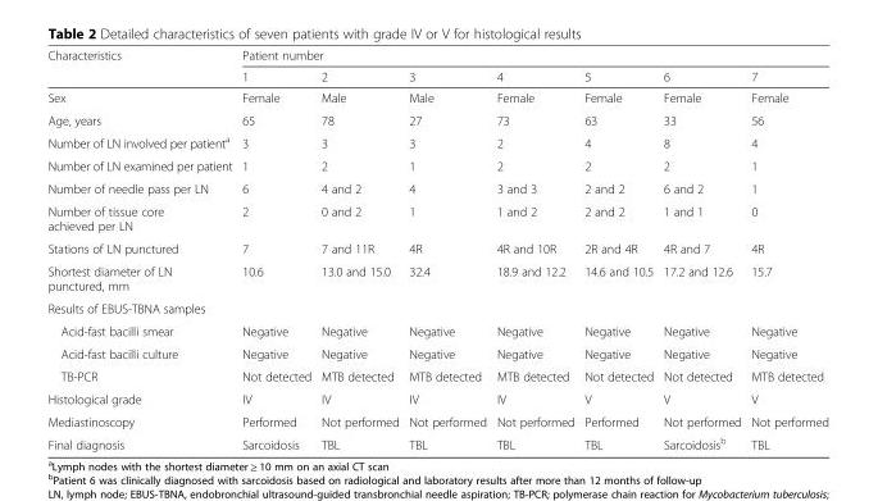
<table><thead><tr><td rowspan="2">Characteristics</td><td colspan="7">Patient number</td></tr><tr><td>1</td><td>2</td><td>3</td><td>4</td><td>5</td><td>6</td><td>7</td></tr></thead><tbody><tr><td>Sex</td><td>Female</td><td>Male</td><td>Male</td><td>Female</td><td>Female</td><td>Female</td><td>Female</td></tr><tr><td>Age, years</td><td>65</td><td>78</td><td>27</td><td>73</td><td>63</td><td>33</td><td>56</td></tr><tr><td>Number of LN involved per patient<sup>a</sup></td><td>3</td><td>3</td><td>3</td><td>2</td><td>4</td><td>8</td><td>4</td></tr><tr><td>Number of LN examined per patient</td><td>1</td><td>2</td><td>1</td><td>2</td><td>2</td><td>2</td><td>1</td></tr><tr><td>Number of needle pass per LN</td><td>6</td><td>4 and 2</td><td>4</td><td>3 and 3</td><td>2 and 2</td><td>6 and 2</td><td>1</td></tr><tr><td>Number of tissue core achieved per LN</td><td>2</td><td>0 and 2</td><td>1</td><td>1 and 2</td><td>2 and 2</td><td>1 and 1</td><td>0</td></tr><tr><td>Stations of LN punctured</td><td>7</td><td>7 and 11R</td><td>4R</td><td>4R and 10R</td><td>2R and 4R</td><td>4R and 7</td><td>4R</td></tr><tr><td>Shortest diameter of LN punctured, mm</td><td>10.6</td><td>13.0 and 15.0</td><td>32.4</td><td>18.9 and 12.2</td><td>14.6 and 10.5</td><td>17.2 and 12.6</td><td>15.7</td></tr><tr><td colspan="8">Results of EBUS-TBNA samples</td></tr><tr><td>Acid-fast bacilli smear</td><td>Negative</td><td>Negative</td><td>Negative</td><td>Negative</td><td>Negative</td><td>Negative</td><td>Negative</td></tr><tr><td>Acid-fast bacilli culture</td><td>Negative</td><td>Negative</td><td>Negative</td><td>Negative</td><td>Negative</td><td>Negative</td><td>Negative</td></tr><tr><td>TB-PCR</td><td>Not detected</td><td>MTB detected</td><td>MTB detected</td><td>MTB detected</td><td>Not detected</td><td>Not detected</td><td>MTB detected</td></tr><tr><td>Histological grade</td><td>IV</td><td>IV</td><td>IV</td><td>IV</td><td>V</td><td>V</td><td>V</td></tr><tr><td>Mediastinoscopy</td><td>Performed</td><td>Not performed</td><td>Not performed</td><td>Not performed</td><td>Performed</td><td>Not performed</td><td>Not performed</td></tr><tr><td>Final diagnosis</td><td>Sarcoidosis</td><td>TBL</td><td>TBL</td><td>TBL</td><td>TBL</td><td>Sarcoidosis<sup>b</sup></td><td>TBL</td></tr></tbody></table>